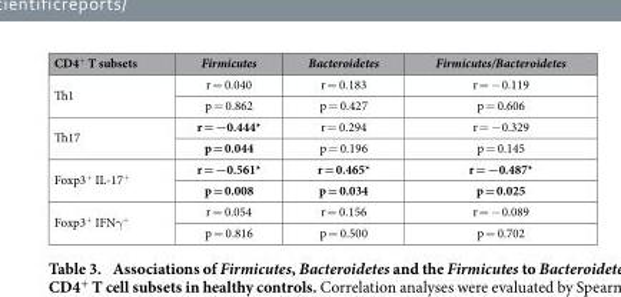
<table><thead><tr><td>CD4<sup>+</sup> T subsets</td><td>Firmicutes</td><td>Bacteroidetes</td><td>Firmicutes/Bacteroidetes</td></tr></thead><tbody><tr><td rowspan="2">Th1</td><td>r = 0.040</td><td>r = 0.183</td><td>r = − 0.119</td></tr><tr><td>p = 0.862</td><td>p = 0.427</td><td>p = 0.606</td></tr><tr><td rowspan="2">Th17</td><td>r = −0.444*</td><td>r = 0.294</td><td>r = − 0.329</td></tr><tr><td>p = 0.044</td><td>p = 0.196</td><td>p = 0.145</td></tr><tr><td rowspan="2">Foxp3<sup>+</sup> IL-17<sup>+</sup></td><td>r = −0.561*</td><td>r = 0.465*</td><td>r = −0.487*</td></tr><tr><td>p = 0.008</td><td>p = 0.034</td><td>p = 0.025</td></tr><tr><td rowspan="2">Foxp3<sup>+</sup> IFNγ <sup>+</sup></td><td>r = 0.054</td><td>r = 0.156</td><td>r = − 0.089</td></tr><tr><td>p = 0.816</td><td>p = 0.500</td><td>p = 0.702</td></tr></tbody></table>